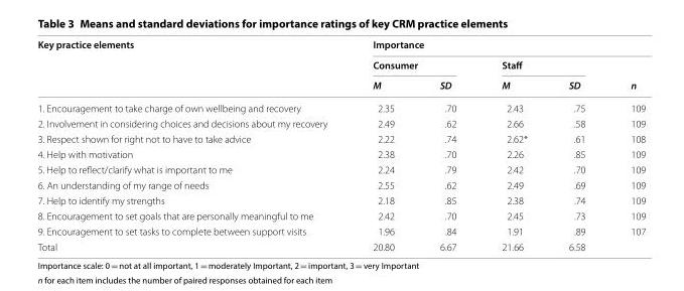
<table><thead><tr><td rowspan="3">Key practice elements</td><td colspan="5">Importance</td></tr><tr><td colspan="2">Consumer</td><td colspan="2">Staff</td><td rowspan="2">n</td></tr><tr><td>M</td><td>SD</td><td>M</td><td>SD</td></tr></thead><tbody><tr><td>1. Encouragement to take charge of own wellbeing and recovery</td><td>2.35</td><td>.70</td><td>2.43</td><td>.75</td><td>109</td></tr><tr><td>2. Involvement in considering choices and decisions about my recovery</td><td>2.49</td><td>.62</td><td>2.66</td><td>.58</td><td>109</td></tr><tr><td>3. Respect shown for right not to have to take advice</td><td>2.22</td><td>.74</td><td>2.62*</td><td>.61</td><td>108</td></tr><tr><td>4. Help with motivation</td><td>2.38</td><td>.70</td><td>2.26</td><td>.85</td><td>109</td></tr><tr><td>5. Help to reflect/clarify what is important to me</td><td>2.24</td><td>.79</td><td>2.42</td><td>.70</td><td>109</td></tr><tr><td>6. An understanding of my range of needs</td><td>2.55</td><td>.62</td><td>2.49</td><td>.69</td><td>109</td></tr><tr><td>7. Help to identify my strengths</td><td>2.18</td><td>.85</td><td>2.38</td><td>.74</td><td>109</td></tr><tr><td>8. Encouragement to set goals that are personally meaningful to me</td><td>2.42</td><td>.70</td><td>2.45</td><td>.73</td><td>109</td></tr><tr><td>9. Encouragement to set tasks to complete between support visits</td><td>1.96</td><td>.84</td><td>1.91</td><td>.89</td><td>107</td></tr><tr><td>Total</td><td>20.80</td><td>6.67</td><td>21.66</td><td>6.58</td><td></td></tr></tbody></table>